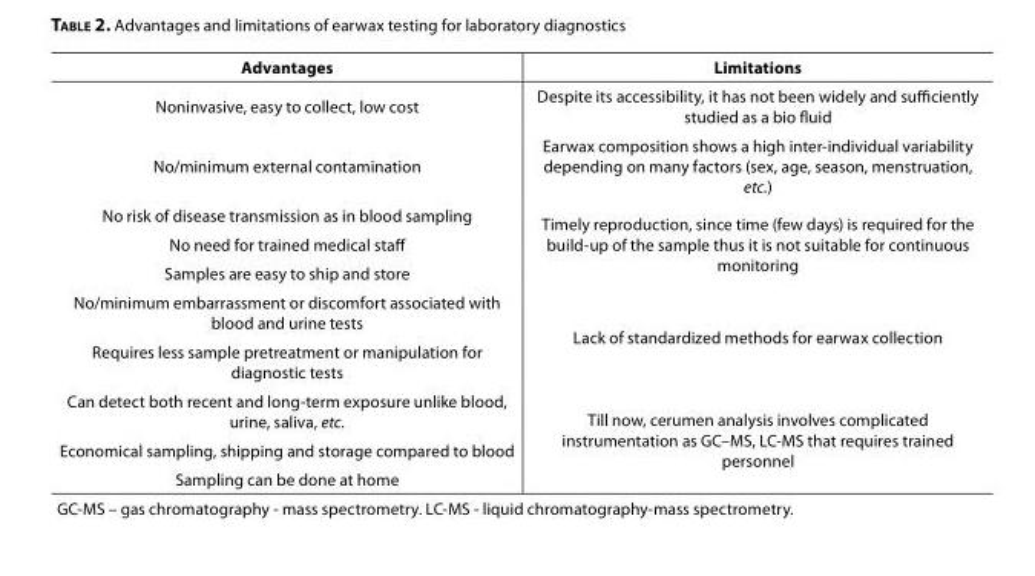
<table><thead><tr><td>Advantages</td><td>Limitations</td></tr></thead><tbody><tr><td>Noninvasive, easy to collect, low cost</td><td>Despite its accessibility, it has not been widely and sufficiently studied as a bio fluid</td></tr><tr><td>No/minimum external contamination</td><td>Earwax composition shows a high inter-individual variability depending on many factors (sex, age, season, menstruation, etc.)</td></tr><tr><td>No risk of disease transmission as in blood sampling</td><td rowspan="3">Timely reproduction, since time (few days) is required for the build-up of the sample thus it is not suitable for continuous monitoring</td></tr><tr><td>No need for trained medical staff</td></tr><tr><td>Samples are easy to ship and store</td></tr><tr><td>No/minimum embarrassment or discomfort associated with blood and urine tests</td><td rowspan="2">Lack of standardized methods for earwax collection</td></tr><tr><td>Requires less sample pretreatment or manipulation for diagnostic tests</td></tr><tr><td>Can detect both recent and long-term exposure unlike blood, urine, saliva, etc.</td><td rowspan="3">Till now, cerumen analysis involves complicated instrumentation as GC–MS, LC-MS that requires trained personnel</td></tr><tr><td>Economical sampling, shipping and storage compared to blood</td></tr><tr><td>Sampling can be done at home</td></tr><tr><td colspan="2">GC-MS – gas chromatography - mass spectrometry. LC-MS - liquid chromatography-mass spectrometry.</td></tr></tbody></table>